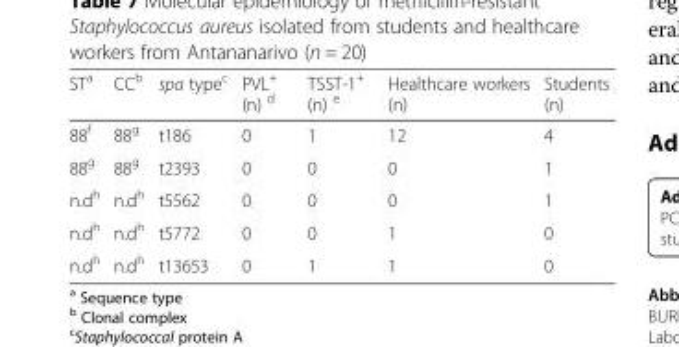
<table><thead><tr><td>ST<sup>a</sup></td><td>CC<sup>b</sup></td><td>spa type<sup>c</sup></td><td>PVL<sup>+</sup> (n) <sup>d</sup></td><td>TSST-1<sup>+</sup> (n) <sup>e</sup></td><td>Healthcare workers (n)</td><td>Students (n)</td></tr></thead><tbody><tr><td>88<sup>f</sup></td><td>88<sup>g</sup></td><td>t186</td><td>0</td><td>1</td><td>12</td><td>4</td></tr><tr><td>88<sup>g</sup></td><td>88<sup>g</sup></td><td>t2393</td><td>0</td><td>0</td><td>0</td><td>1</td></tr><tr><td>n.d<sup>h</sup></td><td>n.d<sup>h</sup></td><td>t5562</td><td>0</td><td>0</td><td>0</td><td>1</td></tr><tr><td>n.d<sup>h</sup></td><td>n.d<sup>h</sup></td><td>t5772</td><td>0</td><td>0</td><td>1</td><td>0</td></tr><tr><td>n.d<sup>h</sup></td><td>n.d<sup>h</sup></td><td>t13653</td><td>0</td><td>1</td><td>1</td><td>0</td></tr></tbody></table>